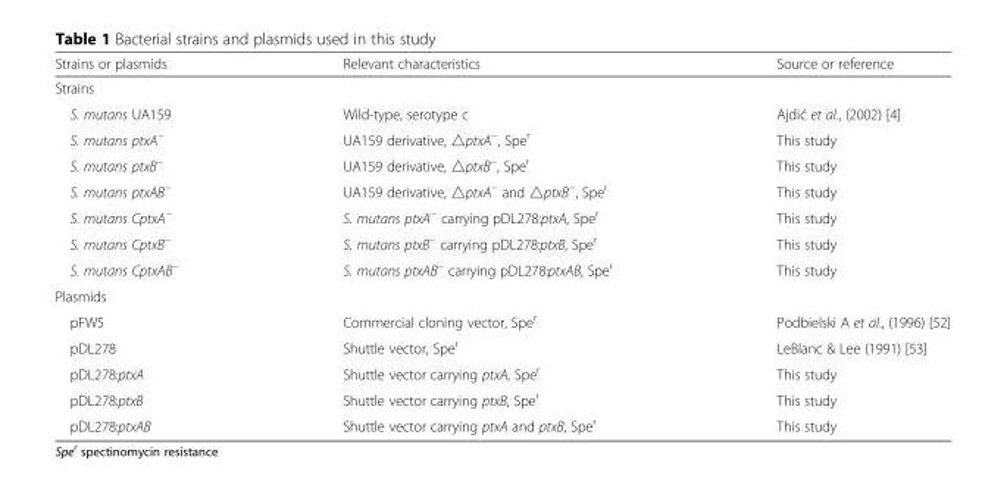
<table><thead><tr><td>Strains or plasmids</td><td>Relevant characteristics</td><td>Source or reference</td></tr></thead><tbody><tr><td colspan="3">Strains</td></tr><tr><td>S. mutans UA159</td><td>Wild-type, serotype c</td><td>Ajdić et al., (2002) [4]</td></tr><tr><td>S. mutans ptxA<sup>−</sup></td><td>UA159 derivative, △ptxA<sup>−</sup>, Spe<sup>r</sup></td><td>This study</td></tr><tr><td>S. mutans ptxB<sup>−</sup></td><td>UA159 derivative, △ptxB<sup>−</sup>, Spe<sup>r</sup></td><td>This study</td></tr><tr><td>S. mutans ptxAB<sup>−</sup></td><td>UA159 derivative, △ptxA<sup>−</sup> and △ptxB<sup>−</sup>, Spe<sup>r</sup></td><td>This study</td></tr><tr><td>S. mutans CptxA<sup>−</sup></td><td>S. mutans ptxA<sup>−</sup> carrying pDL278:ptxA, Spe<sup>r</sup></td><td>This study</td></tr><tr><td>S. mutans CptxB<sup>−</sup></td><td>S. mutans ptxB<sup>−</sup> carrying pDL278:ptxB, Spe<sup>r</sup></td><td>This study</td></tr><tr><td>S. mutans CptxAB<sup>−</sup></td><td>S. mutans ptxAB<sup>−</sup> carrying pDL278:ptxAB, Spe<sup>r</sup></td><td>This study</td></tr><tr><td colspan="3">Plasmids</td></tr><tr><td>pFW5</td><td>Commercial cloning vector, Spe<sup>r</sup></td><td>Podbielski A et al., (1996) [52]</td></tr><tr><td>pDL278</td><td>Shuttle vector, Spe<sup>r</sup></td><td>LeBlanc &amp; Lee (1991) [53]</td></tr><tr><td>pDL278:ptxA</td><td>Shuttle vector carrying ptxA, Spe<sup>r</sup></td><td>This study</td></tr><tr><td>pDL278:ptxB</td><td>Shuttle vector carrying ptxB, Spe<sup>r</sup></td><td>This study</td></tr><tr><td>pDL278:ptxAB</td><td>Shuttle vector carrying ptxA and ptxB, Spe<sup>r</sup></td><td>This study</td></tr></tbody></table>